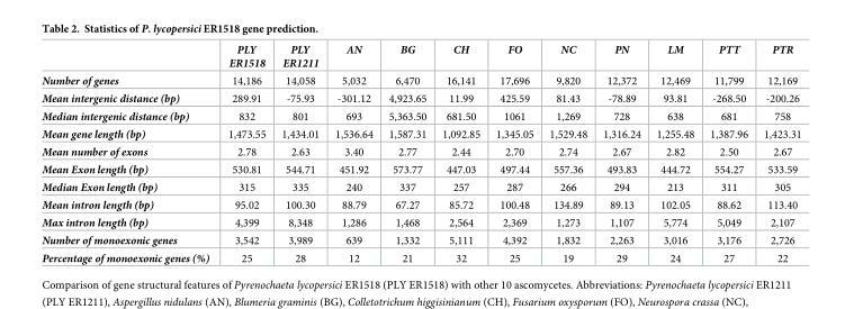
<table><thead><tr><td></td><td>PLY ER1518</td><td>PLY ER1211</td><td>AN</td><td>BG</td><td>CH</td><td>FO</td><td>NC</td><td>PN</td><td>LM</td><td>PTT</td><td>PTR</td></tr></thead><tbody><tr><td>Number of genes</td><td>14,186</td><td>14,058</td><td>5,032</td><td>6,470</td><td>16,141</td><td>17,696</td><td>9,820</td><td>12,372</td><td>12,469</td><td>11,799</td><td>12,169</td></tr><tr><td>Mean intergenic distance (bp)</td><td>289.91</td><td>-75.93</td><td>-301.12</td><td>4,923.65</td><td>11.99</td><td>425.59</td><td>81.43</td><td>-78.89</td><td>93.81</td><td>-268.50</td><td>-200.26</td></tr><tr><td>Median intergenic distance (bp)</td><td>832</td><td>801</td><td>693</td><td>5,363.50</td><td>681.50</td><td>1061</td><td>1,269</td><td>728</td><td>638</td><td>681</td><td>758</td></tr><tr><td>Mean gene length (bp)</td><td>1,473.55</td><td>1,434.01</td><td>1,536.64</td><td>1,587.31</td><td>1,092.85</td><td>1,345.05</td><td>1,529.48</td><td>1,316.24</td><td>1,255.48</td><td>1,387.96</td><td>1,423.31</td></tr><tr><td>Mean number of exons</td><td>2.78</td><td>2.63</td><td>3.40</td><td>2.77</td><td>2.44</td><td>2.70</td><td>2.74</td><td>2.67</td><td>2.82</td><td>2.50</td><td>2.67</td></tr><tr><td>Mean Exon length (bp)</td><td>530.81</td><td>544.71</td><td>451.92</td><td>573.77</td><td>447.03</td><td>497.44</td><td>557.36</td><td>493.83</td><td>444.72</td><td>554.27</td><td>533.59</td></tr><tr><td>Median Exon length (bp)</td><td>315</td><td>335</td><td>240</td><td>337</td><td>257</td><td>287</td><td>266</td><td>294</td><td>213</td><td>311</td><td>305</td></tr><tr><td>Mean intron length (bp)</td><td>95.02</td><td>100.30</td><td>88.79</td><td>67.27</td><td>85.72</td><td>100.48</td><td>134.89</td><td>89.13</td><td>102.05</td><td>88.62</td><td>113.40</td></tr><tr><td>Max intron length (bp)</td><td>4,399</td><td>8,348</td><td>1,286</td><td>1,468</td><td>2,564</td><td>2,369</td><td>1,273</td><td>1,107</td><td>5,774</td><td>5,049</td><td>2,107</td></tr><tr><td>Number of monoexonic genes</td><td>3,542</td><td>3,989</td><td>639</td><td>1,332</td><td>5,111</td><td>4,392</td><td>1,832</td><td>2,263</td><td>3,016</td><td>3,176</td><td>2,726</td></tr><tr><td>Percentage of monoexonic genes (%)</td><td>25</td><td>28</td><td>12</td><td>21</td><td>32</td><td>25</td><td>19</td><td>29</td><td>24</td><td>27</td><td>22</td></tr></tbody></table>